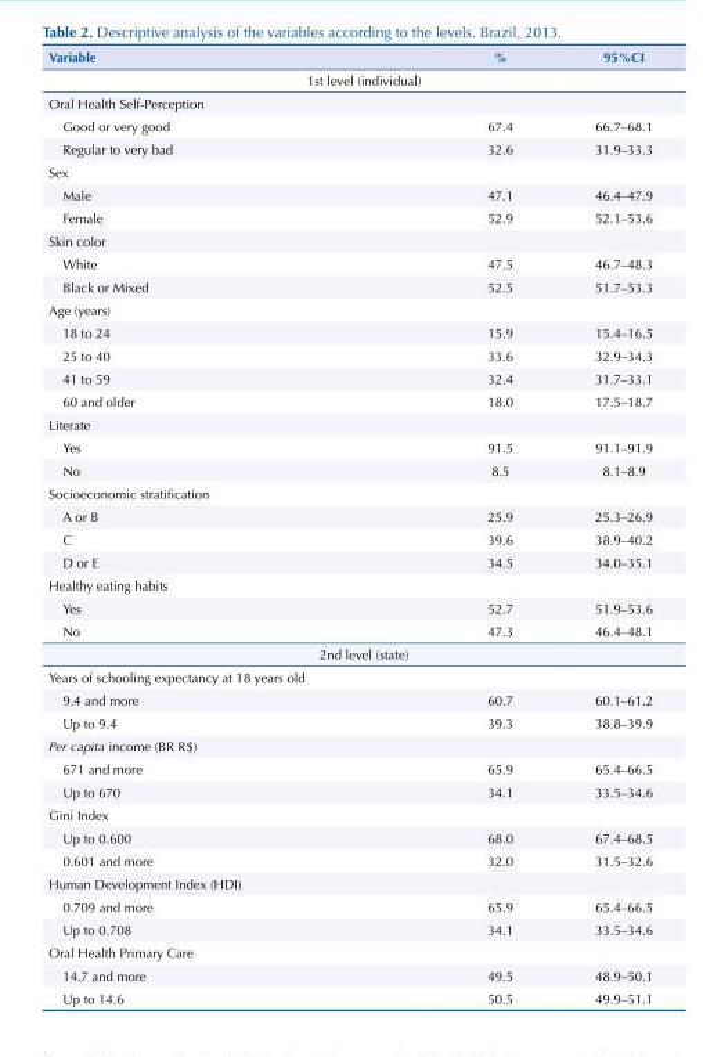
<table><thead><tr><td>Variable</td><td>%</td><td>95%CI</td></tr></thead><tbody><tr><td colspan="3">1st level (individual)</td></tr><tr><td colspan="3">Oral Health Self-Perception</td></tr><tr><td>Good or very good</td><td>67.4</td><td>66.7–68.1</td></tr><tr><td>Regular to very bad</td><td>32.6</td><td>31.9–33.3</td></tr><tr><td colspan="3">Sex</td></tr><tr><td>Male</td><td>47.1</td><td>46.4–47.9</td></tr><tr><td>Female</td><td>52.9</td><td>52.1–53.6</td></tr><tr><td colspan="3">Skin color</td></tr><tr><td>White</td><td>47.5</td><td>46.7–48.3</td></tr><tr><td>Black or Mixed</td><td>52.5</td><td>51.7–53.3</td></tr><tr><td colspan="3">Age (years)</td></tr><tr><td>18 to 24</td><td>15.9</td><td>15.4–16.5</td></tr><tr><td>25 to 40</td><td>33.6</td><td>32.9–34.3</td></tr><tr><td>41 to 59</td><td>32.4</td><td>31.7–33.1</td></tr><tr><td>60 and older</td><td>18.0</td><td>17.5–18.7</td></tr><tr><td colspan="3">Literate</td></tr><tr><td>Yes</td><td>91.5</td><td>91.1–91.9</td></tr><tr><td>No</td><td>8.5</td><td>8.1–8.9</td></tr><tr><td colspan="3">Socioeconomic stratification</td></tr><tr><td>A or B</td><td>25.9</td><td>25.3–26.9</td></tr><tr><td>C</td><td>39.6</td><td>38.9–40.2</td></tr><tr><td>D or E</td><td>34.5</td><td>34.0–35.1</td></tr><tr><td colspan="3">Healthy eating habits</td></tr><tr><td>Yes</td><td>52.7</td><td>51.9–53.6</td></tr><tr><td>No</td><td>47.3</td><td>46.4–48.1</td></tr><tr><td colspan="3">2nd level (state)</td></tr><tr><td colspan="3">Years of schooling expectancy at 18 years old</td></tr><tr><td>9.4 and more</td><td>60.7</td><td>60.1–61.2</td></tr><tr><td>Up to 9.4</td><td>39.3</td><td>38.8–39.9</td></tr><tr><td colspan="3">Per capita income (BR R$)</td></tr><tr><td>671 and more</td><td>65.9</td><td>65.4–66.5</td></tr><tr><td>Up to 670</td><td>34.1</td><td>33.5–34.6</td></tr><tr><td colspan="3">Gini Index</td></tr><tr><td>Up to 0.600</td><td>68.0</td><td>67.4–68.5</td></tr><tr><td>0.601 and more</td><td>32.0</td><td>31.5–32.6</td></tr><tr><td colspan="3">Human Development Index (HDI)</td></tr><tr><td>0.709 and more</td><td>65.9</td><td>65.4–66.5</td></tr><tr><td>Up to 0.708</td><td>34.1</td><td>33.5–34.6</td></tr><tr><td colspan="3">Oral Health Primary Care</td></tr><tr><td>14.7 and more</td><td>49.5</td><td>48.9–50.1</td></tr><tr><td>Up to 14.6</td><td>50.5</td><td>49.9–51.1</td></tr></tbody></table>